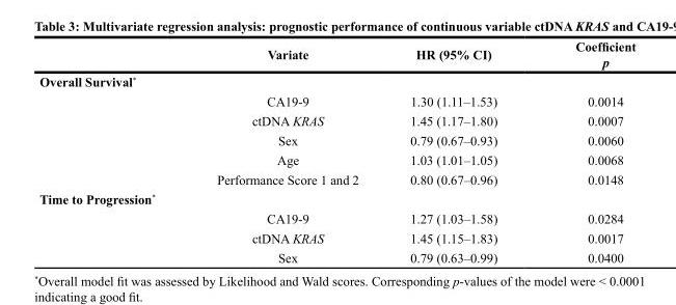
<table><thead><tr><td></td><td>Variate</td><td>HR (95% CI)</td><td>Coefficient p</td></tr></thead><tbody><tr><td colspan="4">Overall Survival*</td></tr><tr><td></td><td>CA19-9</td><td>1.30 (1.11–1.53)</td><td>0.0014</td></tr><tr><td></td><td>ctDNA KRAS</td><td>1.45 (1.17–1.80)</td><td>0.0007</td></tr><tr><td></td><td>Sex</td><td>0.79 (0.67–0.93)</td><td>0.0060</td></tr><tr><td></td><td>Age</td><td>1.03 (1.01–1.05)</td><td>0.0068</td></tr><tr><td></td><td>Performance Score 1 and 2</td><td>0.80 (0.67–0.96)</td><td>0.0148</td></tr><tr><td colspan="4">Time to Progression*</td></tr><tr><td></td><td>CA19-9</td><td>1.27 (1.03–1.58)</td><td>0.0284</td></tr><tr><td></td><td>ctDNA KRAS</td><td>1.45 (1.15–1.83)</td><td>0.0017</td></tr><tr><td></td><td>Sex</td><td>0.79 (0.63–0.99)</td><td>0.0400</td></tr></tbody></table>